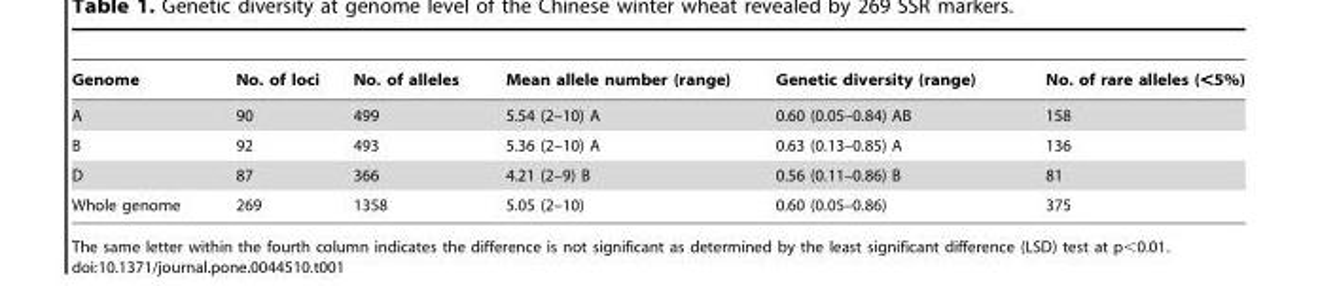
<table><thead><tr><td>Genome</td><td>No. of loci</td><td>No. of alleles</td><td>Mean allele number (range)</td><td>Genetic diversity (range)</td><td>No. of rare alleles (&lt;5%)</td></tr></thead><tbody><tr><td>A</td><td>90</td><td>499</td><td>5.54 (2–10) A</td><td>0.60 (0.05–0.84) AB</td><td>158</td></tr><tr><td>B</td><td>92</td><td>493</td><td>5.36 (2–10) A</td><td>0.63 (0.13–0.85) A</td><td>136</td></tr><tr><td>D</td><td>87</td><td>366</td><td>4.21 (2–9) B</td><td>0.56 (0.11–0.86) B</td><td>81</td></tr><tr><td>Whole genome</td><td>269</td><td>1358</td><td>5.05 (2–10)</td><td>0.60 (0.05–0.86)</td><td>375</td></tr></tbody></table>